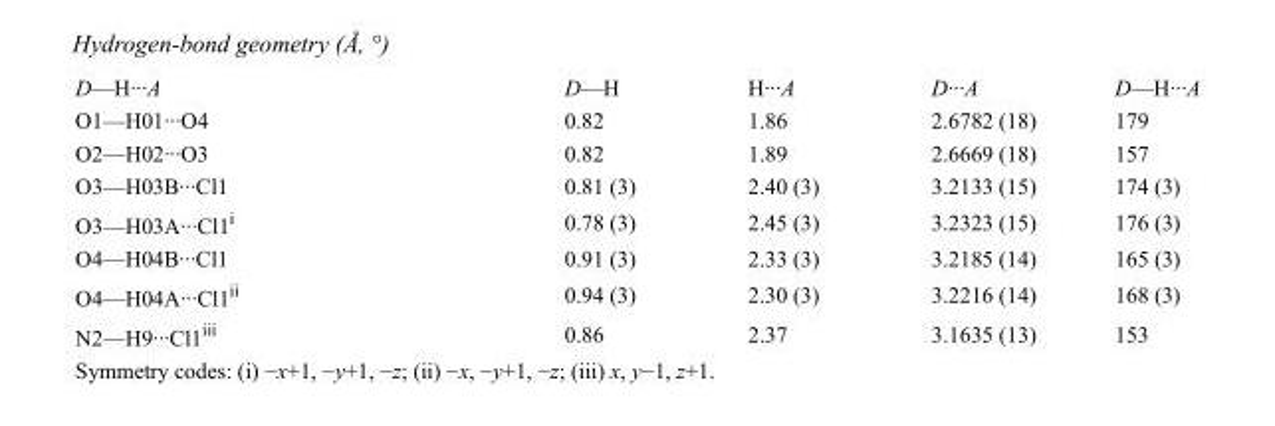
<table><tbody><tr><td>D—H···A</td><td>D—H</td><td>H···A</td><td>D···A</td><td>D—H···A</td></tr><tr><td>O1—H01···O4</td><td>0.82</td><td>1.86</td><td>2.6782 (18)</td><td>179</td></tr><tr><td>O2—H02···O3</td><td>0.82</td><td>1.89</td><td>2.6669 (18)</td><td>157</td></tr><tr><td>O3—H03B···Cl1</td><td>0.81 (3)</td><td>2.40 (3)</td><td>3.2133 (15)</td><td>174 (3)</td></tr><tr><td>O3—H03A···Cl1<sup>i</sup></td><td>0.78 (3)</td><td>2.45 (3)</td><td>3.2323 (15)</td><td>176 (3)</td></tr><tr><td>O4—H04B···Cl1</td><td>0.91 (3)</td><td>2.33 (3)</td><td>3.2185 (14)</td><td>165 (3)</td></tr><tr><td>O4—H04A···Cl1<sup>ii</sup></td><td>0.94 (3)</td><td>2.30 (3)</td><td>3.2216 (14)</td><td>168 (3)</td></tr><tr><td>N2—H9···Cl1<sup>iii</sup></td><td>0.86</td><td>2.37</td><td>3.1635 (13)</td><td>153</td></tr></tbody></table>